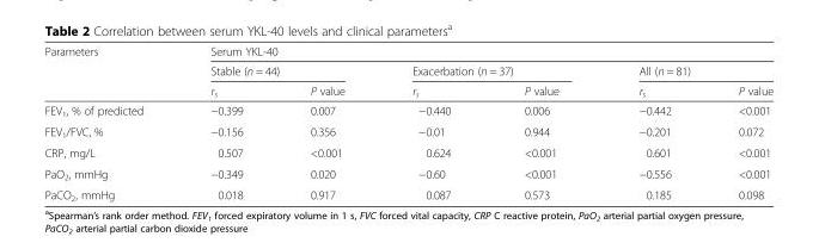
<table><thead><tr><td rowspan="3">Parameters</td><td colspan="6">Serum YKL-40</td></tr><tr><td colspan="2">Stable (n = 44)</td><td colspan="2">Exacerbation (n = 37)</td><td colspan="2">All (n = 81)</td></tr><tr><td>r<sub>s</sub></td><td>P value</td><td>r<sub>s</sub></td><td>P value</td><td>r<sub>s</sub></td><td>P value</td></tr></thead><tbody><tr><td>FEV<sub>1</sub>, % of predicted</td><td>−0.399</td><td>0.007</td><td>−0.440</td><td>0.006</td><td>−0.442</td><td>&lt;0.001</td></tr><tr><td>FEV<sub>1</sub>/FVC, %</td><td>−0.156</td><td>0.356</td><td>−0.01</td><td>0.944</td><td>−0.201</td><td>0.072</td></tr><tr><td>CRP, mg/L</td><td>0.507</td><td>&lt;0.001</td><td>0.624</td><td>&lt;0.001</td><td>0.601</td><td>&lt;0.001</td></tr><tr><td>PaO<sub>2</sub>, mmHg</td><td>−0.349</td><td>0.020</td><td>−0.60</td><td>&lt;0.001</td><td>−0.556</td><td>&lt;0.001</td></tr><tr><td>PaCO<sub>2</sub>, mmHg</td><td>0.018</td><td>0.917</td><td>0.087</td><td>0.573</td><td>0.185</td><td>0.098</td></tr></tbody></table>